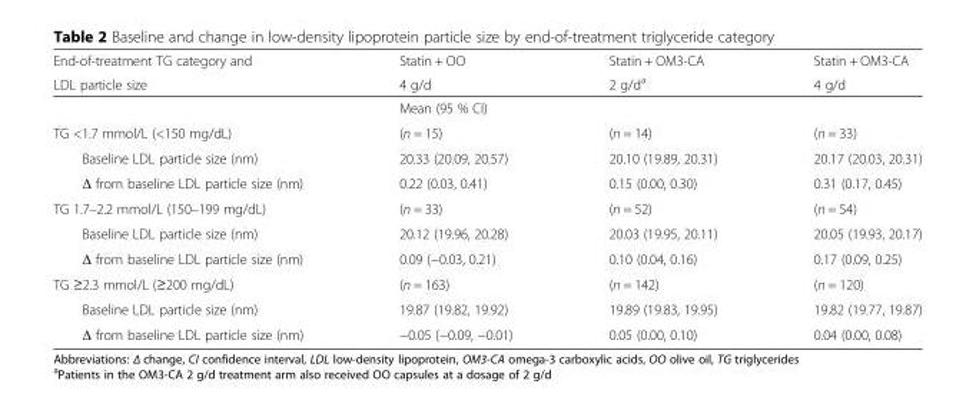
<table><thead><tr><td rowspan="2">End-of-treatment TG category and LDL particle size</td><td rowspan="2">Statin + OO 4 g/d</td><td rowspan="2">Statin + OM3-CA 2 g/d<sup>a</sup></td><td rowspan="2">Statin + OM3-CA 4 g/d</td></tr><tr></tr></thead><tbody><tr><td></td><td colspan="3">Mean (95 % CI)</td></tr><tr><td>TG &lt;1.7 mmol/L (&lt;150 mg/dL)</td><td>(n = 15)</td><td>(n = 14)</td><td>(n = 33)</td></tr><tr><td>Baseline LDL particle size (nm)</td><td>20.33 (20.09, 20.57)</td><td>20.10 (19.89, 20.31)</td><td>20.17 (20.03, 20.31)</td></tr><tr><td>Δ from baseline LDL particle size (nm)</td><td>0.22 (0.03, 0.41)</td><td>0.15 (0.00, 0.30)</td><td>0.31 (0.17, 0.45)</td></tr><tr><td>TG 1.7–2.2 mmol/L (150–199 mg/dL)</td><td>(n = 33)</td><td>(n = 52)</td><td>(n = 54)</td></tr><tr><td>Baseline LDL particle size (nm)</td><td>20.12 (19.96, 20.28)</td><td>20.03 (19.95, 20.11)</td><td>20.05 (19.93, 20.17)</td></tr><tr><td>Δ from baseline LDL particle size (nm)</td><td>0.09 (−0.03, 0.21)</td><td>0.10 (0.04, 0.16)</td><td>0.17 (0.09, 0.25)</td></tr><tr><td>TG ≥2.3 mmol/L (≥200 mg/dL)</td><td>(n = 163)</td><td>(n = 142)</td><td>(n = 120)</td></tr><tr><td>Baseline LDL particle size (nm)</td><td>19.87 (19.82, 19.92)</td><td>19.89 (19.83, 19.95)</td><td>19.82 (19.77, 19.87)</td></tr><tr><td>Δ from baseline LDL particle size (nm)</td><td>−0.05 (−0.09, −0.01)</td><td>0.05 (0.00, 0.10)</td><td>0.04 (0.00, 0.08)</td></tr></tbody></table>